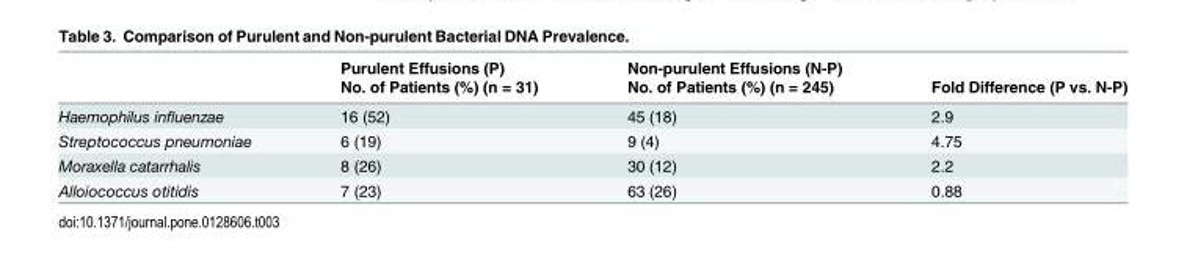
<table><thead><tr><td rowspan="2"></td><td rowspan="2">Purulent Effusions (P) No. of Patients (%) (n = 31)</td><td rowspan="2">Non-purulent Effusions (N-P) No. of Patients (%) (n = 245)</td><td rowspan="2">Fold Difference (P vs. N-P)</td></tr><tr></tr></thead><tbody><tr><td>Haemophilus influenzae</td><td>16 (52)</td><td>45 (18)</td><td>2.9</td></tr><tr><td>Streptococcus pneumoniae</td><td>6 (19)</td><td>9 (4)</td><td>4.75</td></tr><tr><td>Moraxella catarrhalis</td><td>8 (26)</td><td>30 (12)</td><td>2.2</td></tr><tr><td>Alloiococcus otitidis</td><td>7 (23)</td><td>63 (26)</td><td>0.88</td></tr></tbody></table>